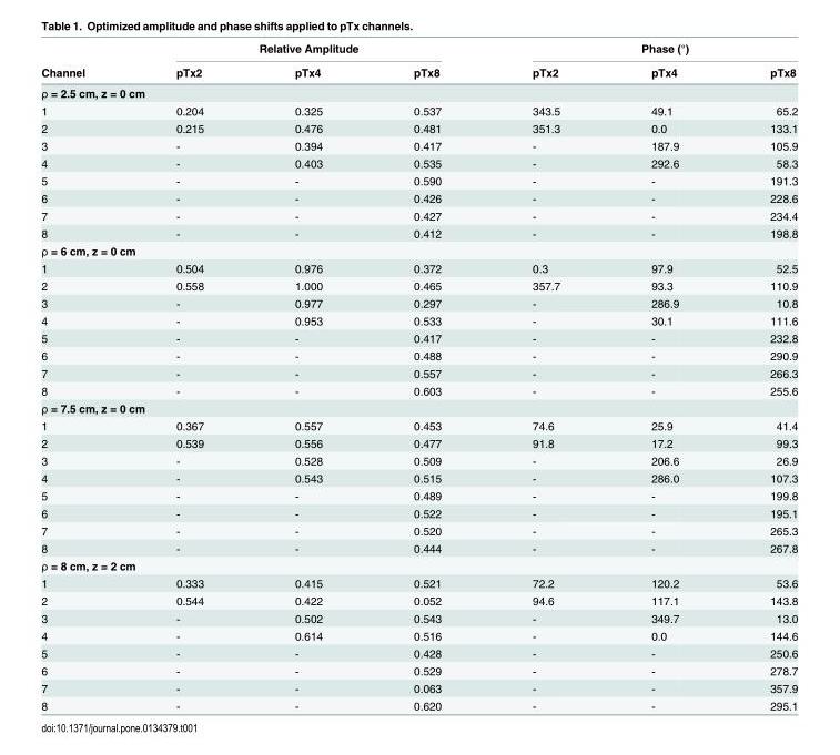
<table><thead><tr><td rowspan="2">Channel</td><td colspan="3">Relative Amplitude</td><td colspan="3">Phase (°)</td></tr><tr><td>pTx2</td><td>pTx4</td><td>pTx8</td><td>pTx2</td><td>pTx4</td><td>pTx8</td></tr></thead><tbody><tr><td colspan="7">ρ = 2.5 cm, z = 0 cm</td></tr><tr><td>1</td><td>0.204</td><td>0.325</td><td>0.537</td><td>343.5</td><td>49.1</td><td>65.2</td></tr><tr><td>2</td><td>0.215</td><td>0.476</td><td>0.481</td><td>351.3</td><td>0.0</td><td>133.1</td></tr><tr><td>3</td><td>-</td><td>0.394</td><td>0.417</td><td>-</td><td>187.9</td><td>105.9</td></tr><tr><td>4</td><td>-</td><td>0.403</td><td>0.535</td><td>-</td><td>292.6</td><td>58.3</td></tr><tr><td>5</td><td>-</td><td>-</td><td>0.590</td><td>-</td><td>-</td><td>191.3</td></tr><tr><td>6</td><td>-</td><td>-</td><td>0.426</td><td>-</td><td>-</td><td>228.6</td></tr><tr><td>7</td><td>-</td><td>-</td><td>0.427</td><td>-</td><td>-</td><td>234.4</td></tr><tr><td>8</td><td>-</td><td>-</td><td>0.412</td><td>-</td><td>-</td><td>198.8</td></tr><tr><td colspan="7">ρ = 6 cm, z = 0 cm</td></tr><tr><td>1</td><td>0.504</td><td>0.976</td><td>0.372</td><td>0.3</td><td>97.9</td><td>52.5</td></tr><tr><td>2</td><td>0.558</td><td>1.000</td><td>0.465</td><td>357.7</td><td>93.3</td><td>110.9</td></tr><tr><td>3</td><td>-</td><td>0.977</td><td>0.297</td><td>-</td><td>286.9</td><td>10.8</td></tr><tr><td>4</td><td>-</td><td>0.953</td><td>0.533</td><td>-</td><td>30.1</td><td>111.6</td></tr><tr><td>5</td><td>-</td><td>-</td><td>0.417</td><td>-</td><td>-</td><td>232.8</td></tr><tr><td>6</td><td>-</td><td>-</td><td>0.488</td><td>-</td><td>-</td><td>290.9</td></tr><tr><td>7</td><td>-</td><td>-</td><td>0.557</td><td>-</td><td>-</td><td>266.3</td></tr><tr><td>8</td><td>-</td><td>-</td><td>0.603</td><td>-</td><td>-</td><td>255.6</td></tr><tr><td colspan="7">ρ = 7.5 cm, z = 0 cm</td></tr><tr><td>1</td><td>0.367</td><td>0.557</td><td>0.453</td><td>74.6</td><td>25.9</td><td>41.4</td></tr><tr><td>2</td><td>0.539</td><td>0.556</td><td>0.477</td><td>91.8</td><td>17.2</td><td>99.3</td></tr><tr><td>3</td><td>-</td><td>0.528</td><td>0.509</td><td>-</td><td>206.6</td><td>26.9</td></tr><tr><td>4</td><td>-</td><td>0.543</td><td>0.515</td><td>-</td><td>286.0</td><td>107.3</td></tr><tr><td>5</td><td>-</td><td>-</td><td>0.489</td><td>-</td><td>-</td><td>199.8</td></tr><tr><td>6</td><td>-</td><td>-</td><td>0.522</td><td>-</td><td>-</td><td>195.1</td></tr><tr><td>7</td><td>-</td><td>-</td><td>0.520</td><td>-</td><td>-</td><td>265.3</td></tr><tr><td>8</td><td>-</td><td>-</td><td>0.444</td><td>-</td><td>-</td><td>267.8</td></tr><tr><td colspan="7">ρ = 8 cm, z = 2 cm</td></tr><tr><td>1</td><td>0.333</td><td>0.415</td><td>0.521</td><td>72.2</td><td>120.2</td><td>53.6</td></tr><tr><td>2</td><td>0.544</td><td>0.422</td><td>0.052</td><td>94.6</td><td>117.1</td><td>143.8</td></tr><tr><td>3</td><td>-</td><td>0.502</td><td>0.543</td><td>-</td><td>349.7</td><td>13.0</td></tr><tr><td>4</td><td>-</td><td>0.614</td><td>0.516</td><td>-</td><td>0.0</td><td>144.6</td></tr><tr><td>5</td><td>-</td><td>-</td><td>0.428</td><td>-</td><td>-</td><td>250.6</td></tr><tr><td>6</td><td>-</td><td>-</td><td>0.529</td><td>-</td><td>-</td><td>278.7</td></tr><tr><td>7</td><td>-</td><td>-</td><td>0.063</td><td>-</td><td>-</td><td>357.9</td></tr><tr><td>8</td><td>-</td><td>-</td><td>0.620</td><td>-</td><td>-</td><td>295.1</td></tr></tbody></table>